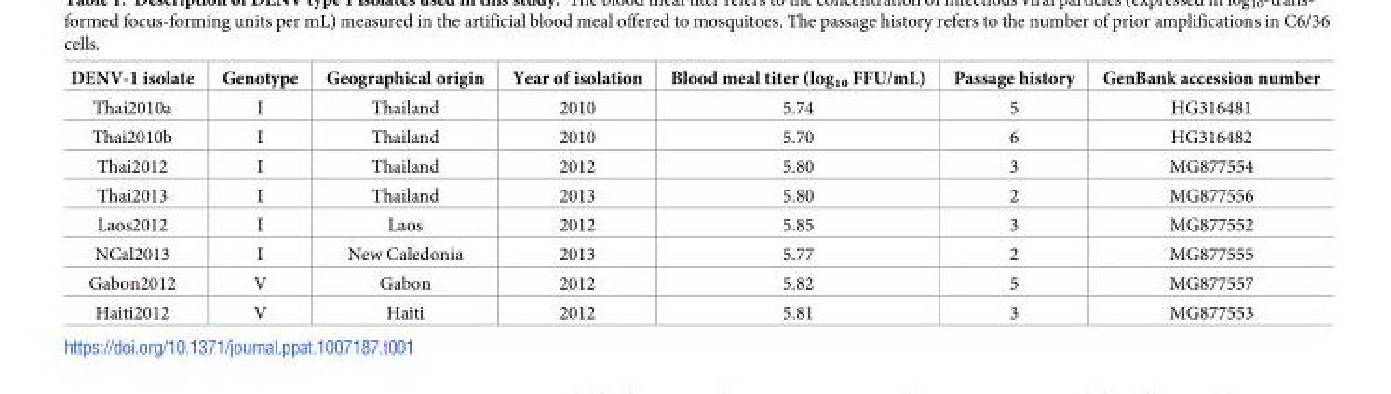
<table><thead><tr><td>DENV-1 isolate</td><td>Genotype</td><td>Geographical origin</td><td>Year of isolation</td><td>Blood meal titer (log<sub>10</sub> FFU/mL)</td><td>Passage history</td><td>GenBank accession number</td></tr></thead><tbody><tr><td>Thai2010a</td><td>I</td><td>Thailand</td><td>2010</td><td>5.74</td><td>5</td><td>HG316481</td></tr><tr><td>Thai2010b</td><td>I</td><td>Thailand</td><td>2010</td><td>5.70</td><td>6</td><td>HG316482</td></tr><tr><td>Thai2012</td><td>I</td><td>Thailand</td><td>2012</td><td>5.80</td><td>3</td><td>MG877554</td></tr><tr><td>Thai2013</td><td>I</td><td>Thailand</td><td>2013</td><td>5.80</td><td>2</td><td>MG877556</td></tr><tr><td>Laos2012</td><td>I</td><td>Laos</td><td>2012</td><td>5.85</td><td>3</td><td>MG877552</td></tr><tr><td>NCal2013</td><td>I</td><td>New Caledonia</td><td>2013</td><td>5.77</td><td>2</td><td>MG877555</td></tr><tr><td>Gabon2012</td><td>V</td><td>Gabon</td><td>2012</td><td>5.82</td><td>5</td><td>MG877557</td></tr><tr><td>Haiti2012</td><td>V</td><td>Haiti</td><td>2012</td><td>5.81</td><td>3</td><td>MG877553</td></tr></tbody></table>